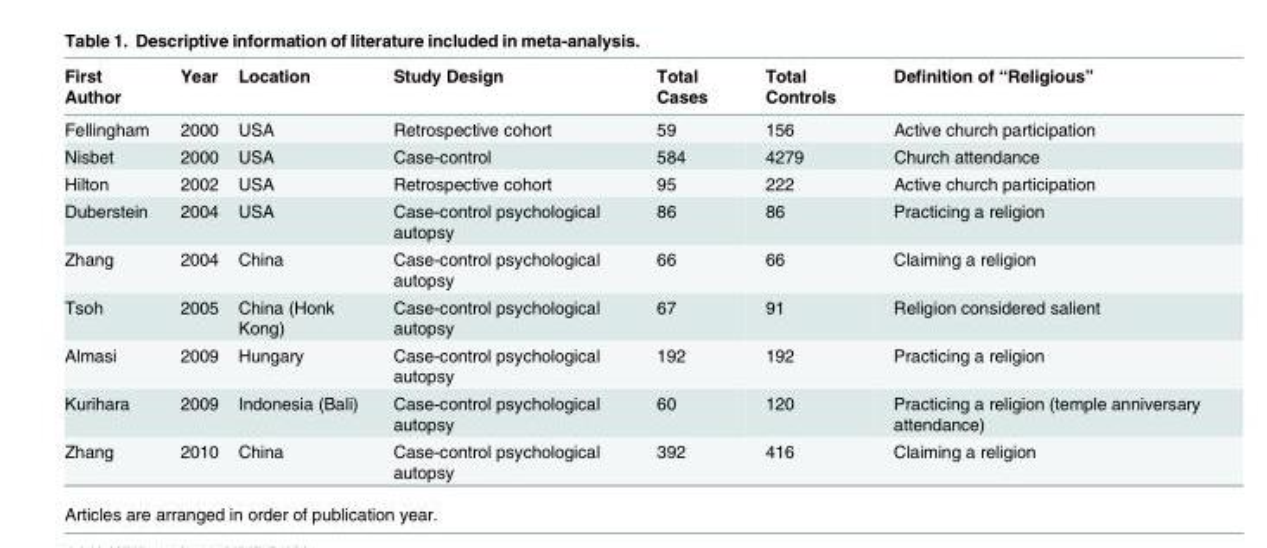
<table><thead><tr><td>First Author</td><td>Year</td><td>Location</td><td>Study Design</td><td>Total Cases</td><td>Total Controls</td><td>Definition of “Religious”</td></tr></thead><tbody><tr><td>Fellingham</td><td>2000</td><td>USA</td><td>Retrospective cohort</td><td>59</td><td>156</td><td>Active church participation</td></tr><tr><td>Nisbet</td><td>2000</td><td>USA</td><td>Case-control</td><td>584</td><td>4279</td><td>Church attendance</td></tr><tr><td>Hilton</td><td>2002</td><td>USA</td><td>Retrospective cohort</td><td>95</td><td>222</td><td>Active church participation</td></tr><tr><td>Duberstein</td><td>2004</td><td>USA</td><td>Case-control psychological autopsy</td><td>86</td><td>86</td><td>Practicing a religion</td></tr><tr><td>Zhang</td><td>2004</td><td>China</td><td>Case-control psychological autopsy</td><td>66</td><td>66</td><td>Claiming a religion</td></tr><tr><td>Tsoh</td><td>2005</td><td>China (Honk Kong)</td><td>Case-control psychological autopsy</td><td>67</td><td>91</td><td>Religion considered salient</td></tr><tr><td>Almasi</td><td>2009</td><td>Hungary</td><td>Case-control psychological autopsy</td><td>192</td><td>192</td><td>Practicing a religion</td></tr><tr><td>Kurihara</td><td>2009</td><td>Indonesia (Bali)</td><td>Case-control psychological autopsy</td><td>60</td><td>120</td><td>Practicing a religion (temple anniversary attendance)</td></tr><tr><td>Zhang</td><td>2010</td><td>China</td><td>Case-control psychological autopsy</td><td>392</td><td>416</td><td>Claiming a religion</td></tr></tbody></table>